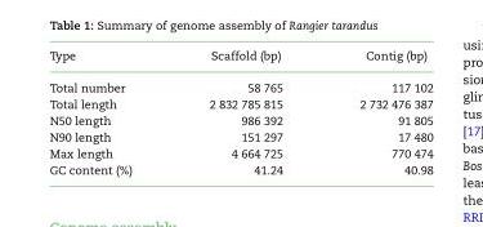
<table><thead><tr><td>Type</td><td>Scaffold (bp)</td><td>Contig (bp)</td></tr></thead><tbody><tr><td>Total number</td><td>58 765</td><td>117 102</td></tr><tr><td>Total length</td><td>2 832 785 815</td><td>2 732 476 387</td></tr><tr><td>N50 length</td><td>986 392</td><td>91 805</td></tr><tr><td>N90 length</td><td>151 297</td><td>17 480</td></tr><tr><td>Max length</td><td>4 664 725</td><td>770 474</td></tr><tr><td>GC content (%)</td><td>41.24</td><td>40.98</td></tr></tbody></table>